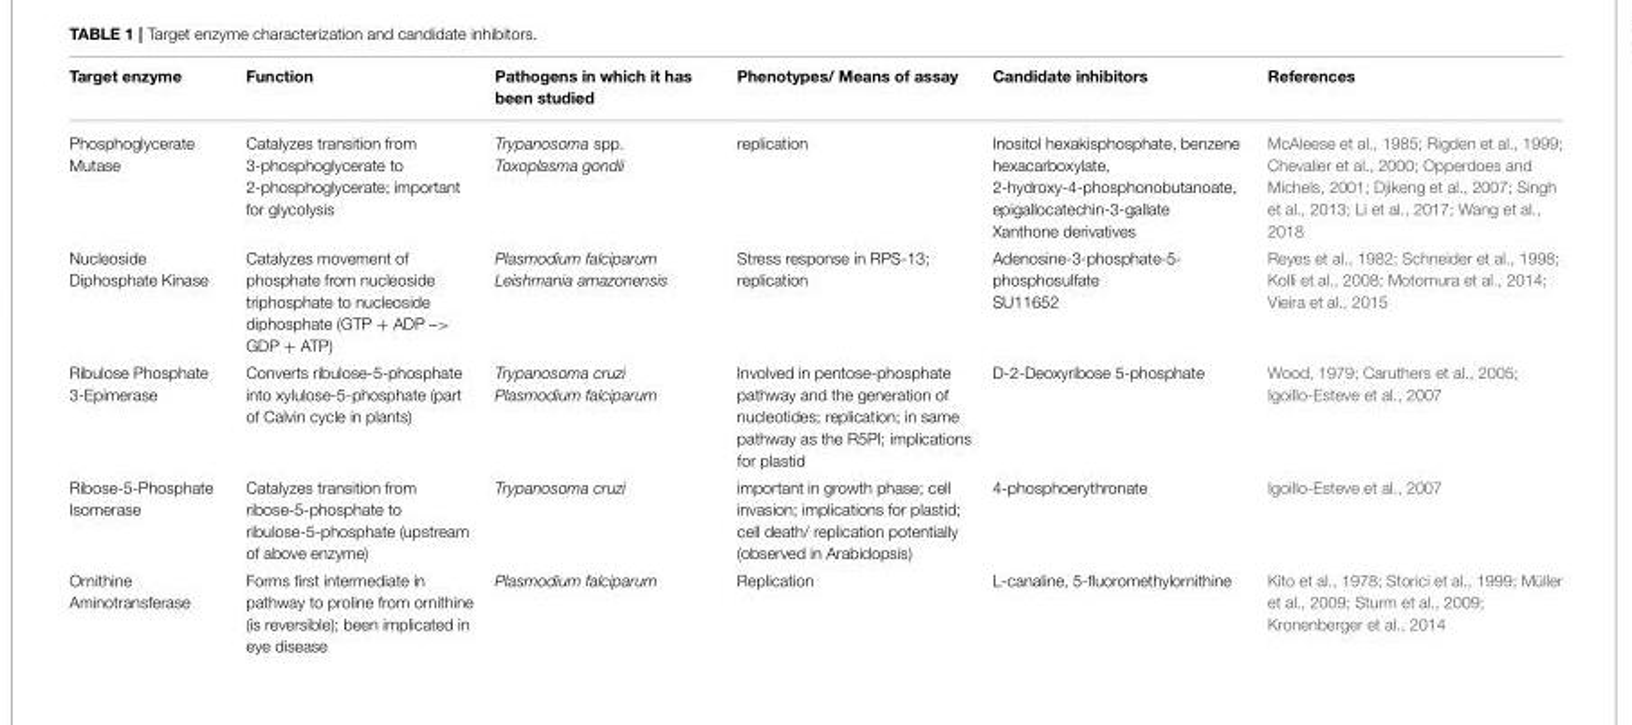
<table><thead><tr><td>Target enzyme</td><td>Function</td><td>Pathogens in which it has been studied</td><td>Phenotypes/ Means of assay</td><td>Candidate inhibitors</td><td>References</td></tr></thead><tbody><tr><td>Phosphoglycerate Mutase</td><td>Catalyzes transition from 3-phosphoglycerate to 2-phosphoglycerate; important for glycolysis</td><td>Trypanosoma spp. Toxoplasma gondii</td><td>replication</td><td>Inositol hexakisphosphate, benzene hexacarboxylate, 2-hydroxy-4-phosphonobutanoate, epigallocatechin-3-gallate Xanthone derivatives</td><td>McAleese et al., 1985; Rigden et al., 1999; Chevalier et al., 2000; Opperdoes and Michels, 2001; Djikeng et al., 2007; Singh et al., 2013; Li et al., 2017; Wang et al., 2018</td></tr><tr><td>Nucleoside Diphosphate Kinase</td><td>Catalyzes movement of phosphate from nucleoside triphosphate to nucleoside diphosphate (GTP + ADP –&gt; GDP + ATP)</td><td>Plasmodium falciparum Leishmania amazonensis</td><td>Stress response in RPS-13; replication</td><td>Adenosine-3-phosphate-5- phosphosulfate SU11652</td><td>Reyes et al., 1982; Schneider et al., 1998; Kolli et al., 2008; Motomura et al., 2014; Vieira et al., 2015</td></tr><tr><td>Ribulose Phosphate 3-Epimerase</td><td>Converts ribulose-5-phosphate into xylulose-5-phosphate (part of Calvin cycle in plants)</td><td>Trypanosoma cruzi Plasmodium falciparum</td><td>Involved in pentose-phosphate pathway and the generation of nucleotides; replication; in same pathway as the R5PI; implications for plastid</td><td>D-2-Deoxyribose 5-phosphate</td><td>Wood, 1979; Caruthers et al., 2005; Igoillo-Esteve et al., 2007</td></tr><tr><td>Ribose-5-Phosphate Isomerase</td><td>Catalyzes transition from ribose-5-phosphate to ribulose-5-phosphate (upstream of above enzyme)</td><td>Trypanosoma cruzi</td><td>important in growth phase; cell invasion; implications for plastid; cell death/ replication potentially (observed in Arabidopsis)</td><td>4-phosphoerythronate</td><td>Igoillo-Esteve et al., 2007</td></tr><tr><td>Ornithine Aminotransferase</td><td>Forms first intermediate in pathway to proline from ornithine (is reversible); been implicated in eye disease</td><td>Plasmodium falciparum</td><td>Replication</td><td>L-canaline, 5-fluoromethylornithine</td><td>Kito et al., 1978; Storici et al., 1999; Müller et al., 2009; Sturm et al., 2009; Kronenberger et al., 2014</td></tr></tbody></table>